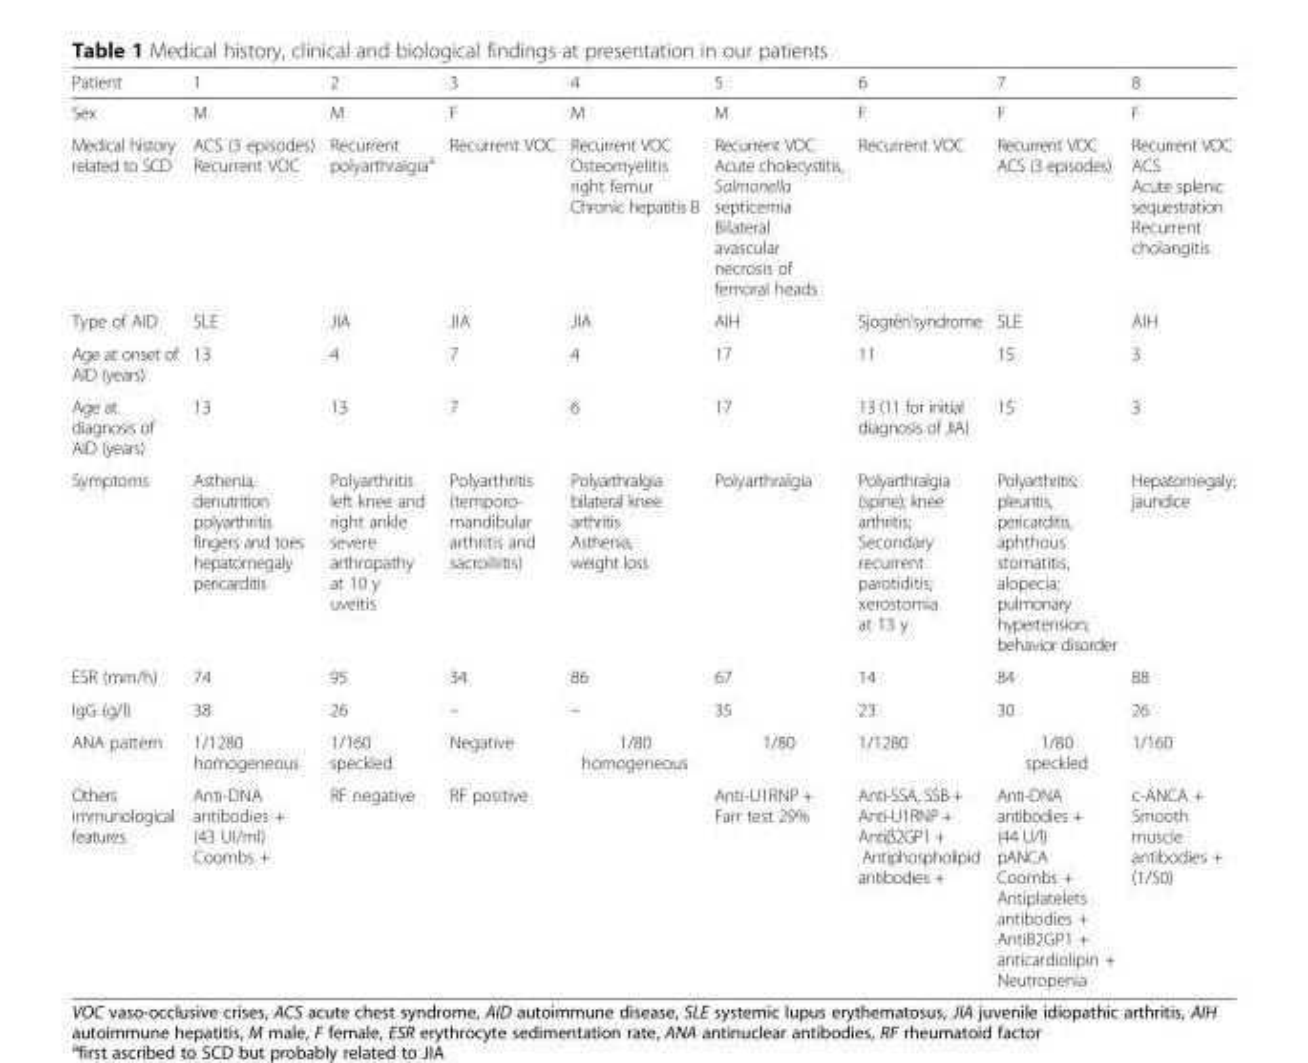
<table><thead><tr><td>Patient</td><td>1</td><td>2</td><td>3</td><td>4</td><td>5</td><td>6</td><td>7</td><td>8</td></tr></thead><tbody><tr><td>Sex</td><td>M</td><td>M</td><td>F</td><td>M</td><td>M</td><td>F</td><td>F</td><td>F</td></tr><tr><td>Medical history related to SCD</td><td>ACS (3 episodes) Recurrent VOC</td><td>Recurrent polyarthralgia<sup>a</sup></td><td>Recurrent VOC</td><td>Recurrent VOC Osteomyelitis right femur Chronic hepatitis B</td><td>Recurrent VOC Acute cholecystitis, Salmonella septicemia Bilateral avascular necrosis of femoral heads</td><td>Recurrent VOC</td><td>Recurrent VOC ACS (3 episodes)</td><td>Recurrent VOC ACS Acute splenic sequestration Recurrent cholangitis</td></tr><tr><td>Type of AID</td><td>SLE</td><td>JIA</td><td>JIA</td><td>JIA</td><td>AIH</td><td>Sjogrën’syndrome</td><td>SLE</td><td>AIH</td></tr><tr><td>Age at onset of AID (years)</td><td>13</td><td>4</td><td>7</td><td>4</td><td>17</td><td>11</td><td>15</td><td>3</td></tr><tr><td>Age at diagnosis of AID (years)</td><td>13</td><td>13</td><td>7</td><td>6</td><td>17</td><td>13 (11 for initial diagnosis of JIA)</td><td>15</td><td>3</td></tr><tr><td>Symptoms</td><td>Asthenia, denutrition polyarthritis fingers and toes hepatomegaly pericarditis</td><td>Polyarthritis left knee and right ankle severe arthropathy at 10 y uveitis</td><td>Polyarthritis (temporo- mandibular arthritis and sacroiliitis)</td><td>Polyarthralgia bilateral knee arthritis Asthenia, weight loss</td><td>Polyarthralgia</td><td>Polyarthralgia (spine); knee arthritis; Secondary recurrent parotiditis; xerostomia at 13 y</td><td>Polyarthritis; pleuritis, pericarditis, aphthous stomatitis, alopecia; pulmonary hypertension; behavior disorder</td><td>Hepatomegaly; jaundice</td></tr><tr><td>ESR (mm/h)</td><td>74</td><td>95</td><td>34</td><td>86</td><td>67</td><td>14</td><td>84</td><td>88</td></tr><tr><td>IgG (g/l)</td><td>38</td><td>26</td><td>–</td><td>–</td><td>35</td><td>23</td><td>30</td><td>26</td></tr><tr><td>ANA pattern</td><td>1/1280 homogeneous</td><td>1/160 speckled</td><td>Negative</td><td>1/80 homogeneous</td><td>1/80</td><td>1/1280</td><td>1/80 speckled</td><td>1/160</td></tr><tr><td>Others immunological features</td><td>Anti-DNA antibodies + (43 UI/ml) Coombs +</td><td>RF negative</td><td>RF positive</td><td></td><td>Anti-U1RNP + Farr test 29%</td><td>Anti-SSA, SSB + Anti-U1RNP + Antiβ2GP1 + Antiphospholipid antibodies +</td><td>Anti-DNA antibodies + (44 U/l) pANCA Coombs + Antiplatelets antibodies + AntiB2GP1 + anticardiolipin + Neutropenia</td><td>c-ANCA + Smooth muscle antibodies + (1/50)</td></tr></tbody></table>